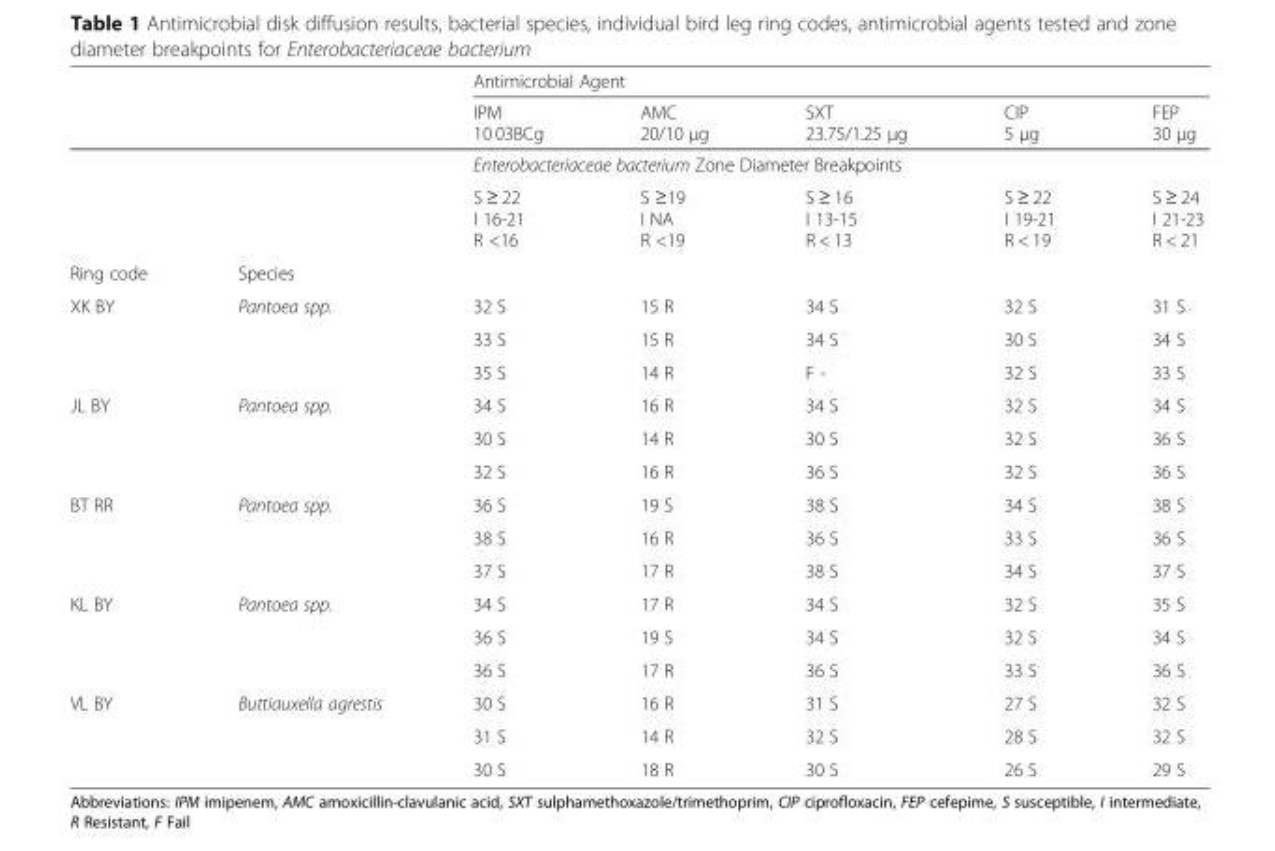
<table><thead><tr><td rowspan="2"></td><td rowspan="2"></td><td colspan="5">Antimicrobial Agent</td></tr><tr><td>IPM 10 03BCg</td><td>AMC 20/10 μg</td><td>SXT 23.75/1.25 μg</td><td>CIP 5 μg</td><td>FEP 30 μg</td></tr></thead><tbody><tr><td rowspan="2" colspan="2"></td><td colspan="5">Enterobacteriaceae bacterium Zone Diameter Breakpoints</td></tr><tr><td>S ≥ 22 I 16-21 R &lt;16</td><td>S ≥19 I NA R &lt;19</td><td>S ≥ 16 I 13-15 R &lt; 13</td><td>S ≥ 22 I 19-21 R &lt; 19</td><td>S ≥ 24 I 21-23 R &lt; 21</td></tr><tr><td>Ring code</td><td>Species</td><td></td><td></td><td></td><td></td><td></td></tr><tr><td rowspan="3">XK BY</td><td rowspan="3">Pantoea spp.</td><td>32 S</td><td>15 R</td><td>34 S</td><td>32 S</td><td>31 S</td></tr><tr><td>33 S</td><td>15 R</td><td>34 S</td><td>30 S</td><td>34 S</td></tr><tr><td>35 S</td><td>14 R</td><td>F -</td><td>32 S</td><td>33 S</td></tr><tr><td rowspan="3">JL BY</td><td rowspan="3">Pantoea spp.</td><td>34 S</td><td>16 R</td><td>34 S</td><td>32 S</td><td>34 S</td></tr><tr><td>30 S</td><td>14 R</td><td>30 S</td><td>32 S</td><td>36 S</td></tr><tr><td>32 S</td><td>16 R</td><td>36 S</td><td>32 S</td><td>36 S</td></tr><tr><td rowspan="3">BT RR</td><td rowspan="3">Pantoea spp.</td><td>36 S</td><td>19 S</td><td>38 S</td><td>34 S</td><td>38 S</td></tr><tr><td>38 S</td><td>16 R</td><td>36 S</td><td>33 S</td><td>36 S</td></tr><tr><td>37 S</td><td>17 R</td><td>38 S</td><td>34 S</td><td>37 S</td></tr><tr><td rowspan="3">KL BY</td><td rowspan="3">Pantoea spp.</td><td>34 S</td><td>17 R</td><td>34 S</td><td>32 S</td><td>35 S</td></tr><tr><td>36 S</td><td>19 S</td><td>34 S</td><td>32 S</td><td>34 S</td></tr><tr><td>36 S</td><td>17 R</td><td>36 S</td><td>33 S</td><td>36 S</td></tr><tr><td rowspan="3">VL BY</td><td rowspan="3">Buttiauxella agrestis</td><td>30 S</td><td>16 R</td><td>31 S</td><td>27 S</td><td>32 S</td></tr><tr><td>31 S</td><td>14 R</td><td>32 S</td><td>28 S</td><td>32 S</td></tr><tr><td>30 S</td><td>18 R</td><td>30 S</td><td>26 S</td><td>29 S</td></tr></tbody></table>